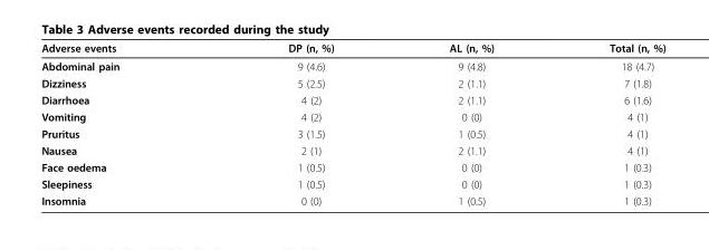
<table><thead><tr><td>Adverse events</td><td>DP (n, %)</td><td>AL (n, %)</td><td>Total (n, %)</td></tr></thead><tbody><tr><td>Abdominal pain</td><td>9 (4.6)</td><td>9 (4.8)</td><td>18 (4.7)</td></tr><tr><td>Dizziness</td><td>5 (2.5)</td><td>2 (1.1)</td><td>7 (1.8)</td></tr><tr><td>Diarrhoea</td><td>4 (2)</td><td>2 (1.1)</td><td>6 (1.6)</td></tr><tr><td>Vomiting</td><td>4 (2)</td><td>0 (0)</td><td>4 (1)</td></tr><tr><td>Pruritus</td><td>3 (1.5)</td><td>1 (0.5)</td><td>4 (1)</td></tr><tr><td>Nausea</td><td>2 (1)</td><td>2 (1.1)</td><td>4 (1)</td></tr><tr><td>Face oedema</td><td>1 (0.5)</td><td>0 (0)</td><td>1 (0.3)</td></tr><tr><td>Sleepiness</td><td>1 (0.5)</td><td>0 (0)</td><td>1 (0.3)</td></tr><tr><td>Insomnia</td><td>0 (0)</td><td>1 (0.5)</td><td>1 (0.3)</td></tr></tbody></table>